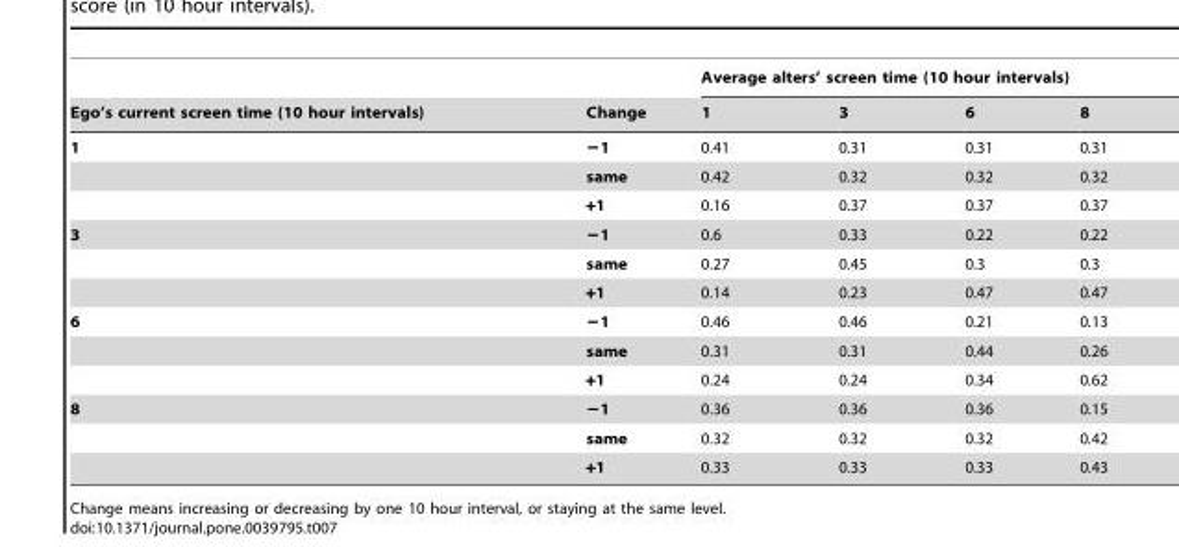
<table><thead><tr><td rowspan="2">Ego’s current screen time (10 hour intervals)</td><td rowspan="2">Change</td><td colspan="4">Average alters’ screen time (10 hour intervals)</td></tr><tr><td>1</td><td>3</td><td>6</td><td>8</td></tr></thead><tbody><tr><td rowspan="3">1</td><td>−1</td><td>0.41</td><td>0.31</td><td>0.31</td><td>0.31</td></tr><tr><td>same</td><td>0.42</td><td>0.32</td><td>0.32</td><td>0.32</td></tr><tr><td>+1</td><td>0.16</td><td>0.37</td><td>0.37</td><td>0.37</td></tr><tr><td rowspan="3">3</td><td>−1</td><td>0.6</td><td>0.33</td><td>0.22</td><td>0.22</td></tr><tr><td>same</td><td>0.27</td><td>0.45</td><td>0.3</td><td>0.3</td></tr><tr><td>+1</td><td>0.14</td><td>0.23</td><td>0.47</td><td>0.47</td></tr><tr><td rowspan="3">6</td><td>−1</td><td>0.46</td><td>0.46</td><td>0.21</td><td>0.13</td></tr><tr><td>same</td><td>0.31</td><td>0.31</td><td>0.44</td><td>0.26</td></tr><tr><td>+1</td><td>0.24</td><td>0.24</td><td>0.34</td><td>0.62</td></tr><tr><td rowspan="3">8</td><td>−1</td><td>0.36</td><td>0.36</td><td>0.36</td><td>0.15</td></tr><tr><td>same</td><td>0.32</td><td>0.32</td><td>0.32</td><td>0.42</td></tr><tr><td>+1</td><td>0.33</td><td>0.33</td><td>0.33</td><td>0.43</td></tr></tbody></table>